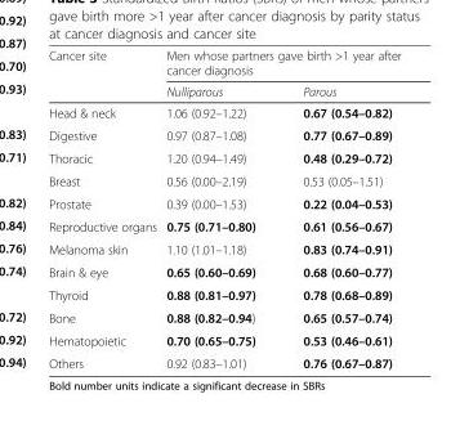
<table><thead><tr><td rowspan="2">Cancer site</td><td colspan="2">Men whose partners gave birth &gt;1 year after cancer diagnosis</td></tr><tr><td>Nulliparous</td><td>Parous</td></tr></thead><tbody><tr><td>Head &amp; neck</td><td>1.06 (0.92–1.22)</td><td>0.67 (0.54–0.82)</td></tr><tr><td>Digestive</td><td>0.97 (0.87–1.08)</td><td>0.77 (0.67–0.89)</td></tr><tr><td>Thoracic</td><td>1.20 (0.94–1.49)</td><td>0.48 (0.29–0.72)</td></tr><tr><td>Breast</td><td>0.56 (0.00–2.19)</td><td>0.53 (0.05–1.51)</td></tr><tr><td>Prostate</td><td>0.39 (0.00–1.53)</td><td>0.22 (0.04–0.53)</td></tr><tr><td>Reproductive organs</td><td>0.75 (0.71–0.80)</td><td>0.61 (0.56–0.67)</td></tr><tr><td>Melanoma skin</td><td>1.10 (1.01–1.18)</td><td>0.83 (0.74–0.91)</td></tr><tr><td>Brain &amp; eye</td><td>0.65 (0.60–0.69)</td><td>0.68 (0.60–0.77)</td></tr><tr><td>Thyroid</td><td>0.88 (0.81–0.97)</td><td>0.78 (0.68–0.89)</td></tr><tr><td>Bone</td><td>0.88 (0.82–0.94)</td><td>0.65 (0.57–0.74)</td></tr><tr><td>Hematopoietic</td><td>0.70 (0.65–0.75)</td><td>0.53 (0.46–0.61)</td></tr><tr><td>Others</td><td>0.92 (0.83–1.01)</td><td>0.76 (0.67–0.87)</td></tr></tbody></table>